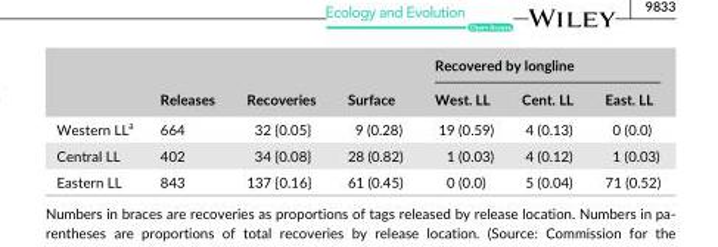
<table><thead><tr><td rowspan="2"></td><td rowspan="2">Releases</td><td rowspan="2">Recoveries</td><td rowspan="2">Surface</td><td colspan="3">Recovered by longline</td></tr><tr><td>West. LL</td><td>Cent. LL</td><td>East. LL</td></tr></thead><tbody><tr><td>Western LL<sup>a</sup></td><td>664</td><td>32 {0.05}</td><td>9 (0.28)</td><td>19 (0.59)</td><td>4 (0.13)</td><td>0 (0.0)</td></tr><tr><td>Central LL</td><td>402</td><td>34 {0.08}</td><td>28 (0.82)</td><td>1 (0.03)</td><td>4 (0.12)</td><td>1 (0.03)</td></tr><tr><td>Eastern LL</td><td>843</td><td>137 {0.16}</td><td>61 (0.45)</td><td>0 (0.0)</td><td>5 (0.04)</td><td>71 (0.52)</td></tr></tbody></table>